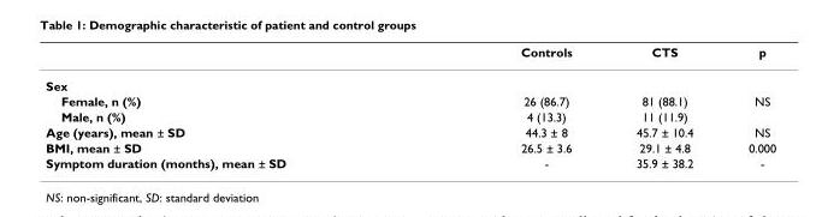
<table><thead><tr><td></td><td>Controls</td><td>CTS</td><td>p</td></tr></thead><tbody><tr><td colspan="4">Sex</td></tr><tr><td>Female, n (%)</td><td>26 (86.7)</td><td>81 (88.1)</td><td>NS</td></tr><tr><td>Male, n (%)</td><td>4 (13.3)</td><td>11 (11.9)</td><td></td></tr><tr><td>Age (years), mean ± SD</td><td>44.3 ± 8</td><td>45.7 ± 10.4</td><td>NS</td></tr><tr><td>BMI, mean ± SD</td><td>26.5 ± 3.6</td><td>29.1 ± 4.8</td><td>0.000</td></tr><tr><td>Symptom duration (months), mean ± SD</td><td>-</td><td>35.9 ± 38.2</td><td>-</td></tr></tbody></table>